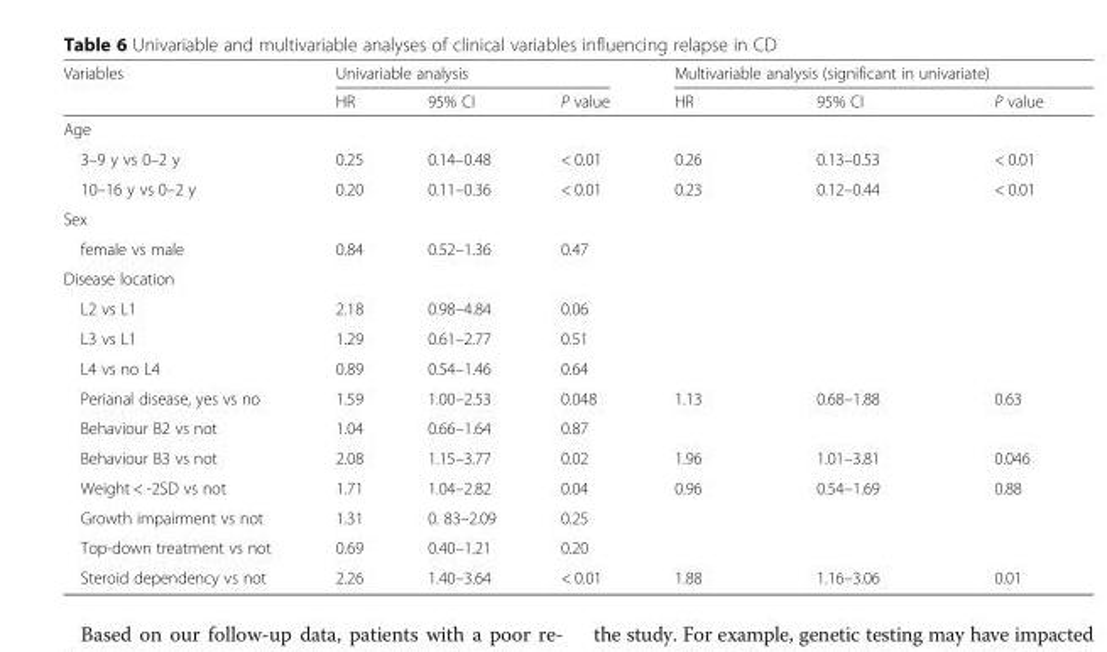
<table><thead><tr><td rowspan="2">Variables</td><td colspan="3">Univariable analysis</td><td colspan="3">Multivariable analysis (significant in univariate)</td></tr><tr><td>HR</td><td>95% CI</td><td>P value</td><td>HR</td><td>95% CI</td><td>P value</td></tr></thead><tbody><tr><td colspan="7">Age</td></tr><tr><td>3–9 y vs 0–2 y</td><td>0.25</td><td>0.14–0.48</td><td>&lt; 0.01</td><td>0.26</td><td>0.13–0.53</td><td>&lt; 0.01</td></tr><tr><td>10–16 y vs 0–2 y</td><td>0.20</td><td>0.11–0.36</td><td>&lt; 0.01</td><td>0.23</td><td>0.12–0.44</td><td>&lt; 0.01</td></tr><tr><td colspan="7">Sex</td></tr><tr><td>female vs male</td><td>0.84</td><td>0.52–1.36</td><td>0.47</td><td></td><td></td><td></td></tr><tr><td colspan="7">Disease location</td></tr><tr><td>L2 vs L1</td><td>2.18</td><td>0.98–4.84</td><td>0.06</td><td></td><td></td><td></td></tr><tr><td>L3 vs L1</td><td>1.29</td><td>0.61–2.77</td><td>0.51</td><td></td><td></td><td></td></tr><tr><td>L4 vs no L4</td><td>0.89</td><td>0.54–1.46</td><td>0.64</td><td></td><td></td><td></td></tr><tr><td>Perianal disease, yes vs no</td><td>1.59</td><td>1.00–2.53</td><td>0.048</td><td>1.13</td><td>0.68–1.88</td><td>0.63</td></tr><tr><td>Behaviour B2 vs not</td><td>1.04</td><td>0.66–1.64</td><td>0.87</td><td></td><td></td><td></td></tr><tr><td>Behaviour B3 vs not</td><td>2.08</td><td>1.15–3.77</td><td>0.02</td><td>1.96</td><td>1.01–3.81</td><td>0.046</td></tr><tr><td>Weight &lt; -2SD vs not</td><td>1.71</td><td>1.04–2.82</td><td>0.04</td><td>0.96</td><td>0.54–1.69</td><td>0.88</td></tr><tr><td>Growth impairment vs not</td><td>1.31</td><td>0. 83–2.09</td><td>0.25</td><td></td><td></td><td></td></tr><tr><td>Top-down treatment vs not</td><td>0.69</td><td>0.40–1.21</td><td>0.20</td><td></td><td></td><td></td></tr><tr><td>Steroid dependency vs not</td><td>2.26</td><td>1.40–3.64</td><td>&lt; 0.01</td><td>1.88</td><td>1.16–3.06</td><td>0.01</td></tr></tbody></table>